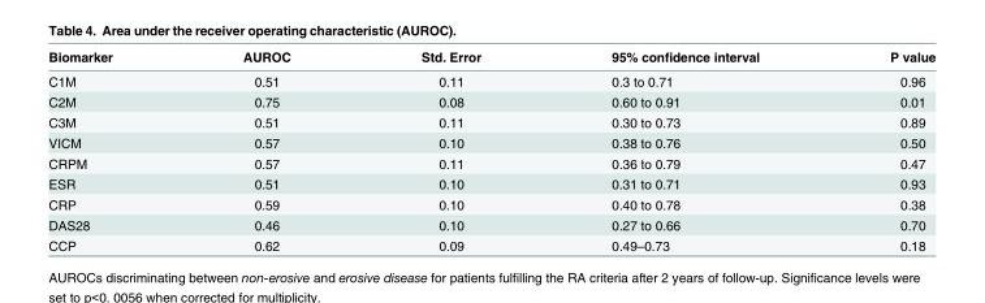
<table><thead><tr><td>Biomarker</td><td>AUROC</td><td>Std. Error</td><td>95% confidence interval</td><td>P value</td></tr></thead><tbody><tr><td>C1M</td><td>0.51</td><td>0.11</td><td>0.3 to 0.71</td><td>0.96</td></tr><tr><td>C2M</td><td>0.75</td><td>0.08</td><td>0.60 to 0.91</td><td>0.01</td></tr><tr><td>C3M</td><td>0.51</td><td>0.11</td><td>0.30 to 0.73</td><td>0.89</td></tr><tr><td>VICM</td><td>0.57</td><td>0.10</td><td>0.38 to 0.76</td><td>0.50</td></tr><tr><td>CRPM</td><td>0.57</td><td>0.11</td><td>0.36 to 0.79</td><td>0.47</td></tr><tr><td>ESR</td><td>0.51</td><td>0.10</td><td>0.31 to 0.71</td><td>0.93</td></tr><tr><td>CRP</td><td>0.59</td><td>0.10</td><td>0.40 to 0.78</td><td>0.38</td></tr><tr><td>DAS28</td><td>0.46</td><td>0.10</td><td>0.27 to 0.66</td><td>0.70</td></tr><tr><td>CCP</td><td>0.62</td><td>0.09</td><td>0.49–0.73</td><td>0.18</td></tr></tbody></table>